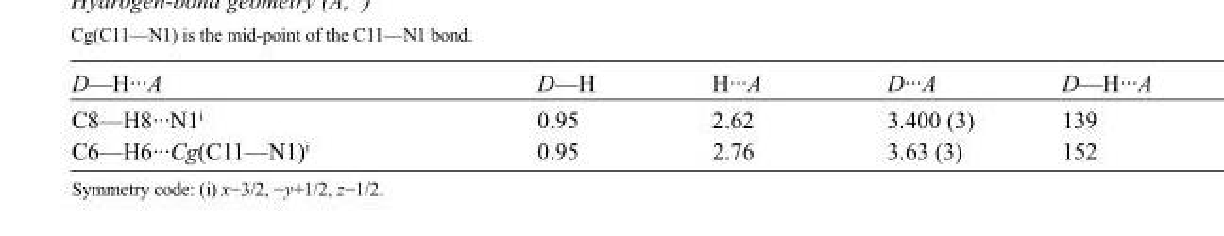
<table><tbody><tr><td>D—H···A</td><td>D—H</td><td>H···A</td><td>D···A</td><td>D—H···A</td></tr><tr><td>C8—H8···N1<sup>i</sup></td><td>0.95</td><td>2.62</td><td>3.400 (3)</td><td>139</td></tr><tr><td>C6—H6···Cg(C11—N1)<sup>i</sup></td><td>0.95</td><td>2.76</td><td>3.63 (3)</td><td>152</td></tr></tbody></table>